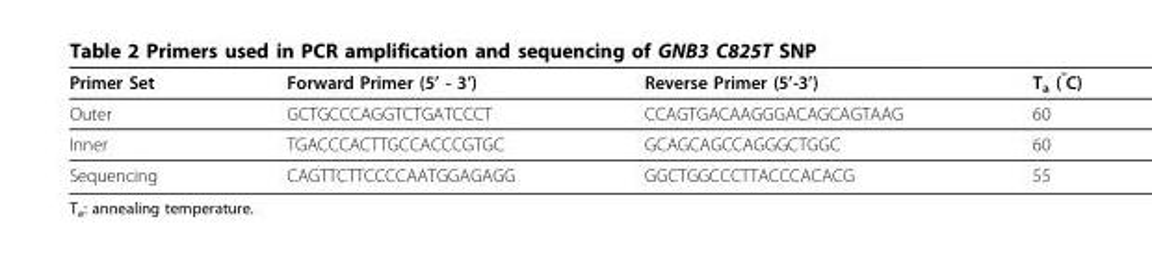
<table><thead><tr><td>Primer Set</td><td>Forward Primer (5’ - 3’)</td><td>Reverse Primer (5’-3’)</td><td>T<sub>a</sub> (<sup>°</sup>C)</td></tr></thead><tbody><tr><td>Outer</td><td>GCTGCCCAGGTCTGATCCCT</td><td>CCAGTGACAAGGGACAGCAGTAAG</td><td>60</td></tr><tr><td>Inner</td><td>TGACCCACTTGCCACCCGTGC</td><td>GCAGCAGCCAGGGCTGGC</td><td>60</td></tr><tr><td>Sequencing</td><td>CAGTTCTTCCCCAATGGAGAGG</td><td>GGCTGGCCCTTACCCACACG</td><td>55</td></tr></tbody></table>